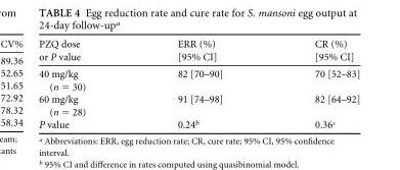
<table><thead><tr><td>PZQ dose or P value</td><td>ERR (%) [95% CI]</td><td>CR (%) [95% CI]</td></tr></thead><tbody><tr><td>40 mg/kg (n = 30)</td><td>82 [70–90]</td><td>70 [52–83]</td></tr><tr><td>60 mg/kg (n = 28)</td><td>91 [74–98]</td><td>82 [64–92]</td></tr><tr><td>P value</td><td>0.24<sup>b</sup></td><td>0.36<sup>c</sup></td></tr></tbody></table>